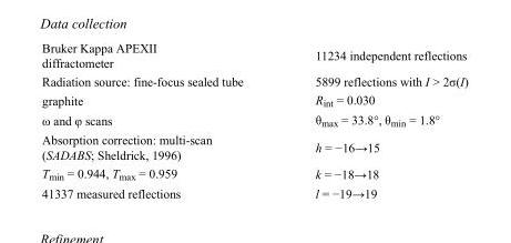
<table><tbody><tr><td>Bruker Kappa APEXII diffractometer</td><td>11234 independent reflections</td></tr><tr><td>Radiation source: fine-focus sealed tube</td><td>5899 reflections with I &gt; 2σ(I)</td></tr><tr><td>graphite</td><td>R<sub>int</sub> = 0.030</td></tr><tr><td>ω and φ scans</td><td>θ<sub>max</sub> = 33.8°, θ<sub>min</sub> = 1.8°</td></tr><tr><td>Absorption correction: multi-scan (SADABS; Sheldrick, 1996)</td><td>h = −16→15</td></tr><tr><td>T<sub>min</sub> = 0.944, T<sub>max</sub> = 0.959</td><td>k = −18→18</td></tr><tr><td>41337 measured reflections</td><td>l = −19→19</td></tr></tbody></table>